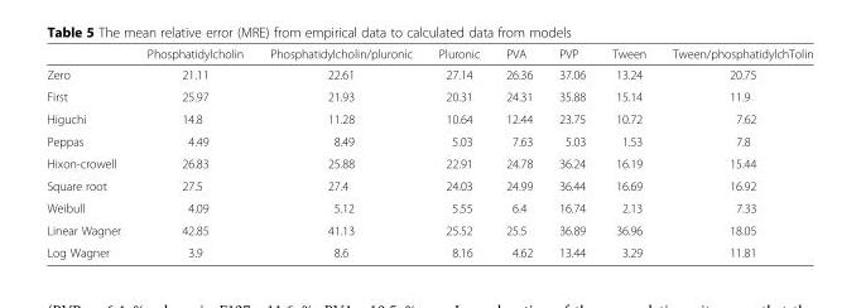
<table><thead><tr><td></td><td>Phosphatidylcholin</td><td>Phosphatidylcholin/pluronic</td><td>Pluronic</td><td>PVA</td><td>PVP</td><td>Tween</td><td>Tween/phosphatidylchTolin</td></tr></thead><tbody><tr><td>Zero</td><td>21.11</td><td>22.61</td><td>27.14</td><td>26.36</td><td>37.06</td><td>13.24</td><td>20.75</td></tr><tr><td>First</td><td>25.97</td><td>21.93</td><td>20.31</td><td>24.31</td><td>35.88</td><td>15.14</td><td>11.9</td></tr><tr><td>Higuchi</td><td>14.8</td><td>11.28</td><td>10.64</td><td>12.44</td><td>23.75</td><td>10.72</td><td>7.62</td></tr><tr><td>Peppas</td><td>4.49</td><td>8.49</td><td>5.03</td><td>7.63</td><td>5.03</td><td>1.53</td><td>7.8</td></tr><tr><td>Hixon-crowell</td><td>26.83</td><td>25.88</td><td>22.91</td><td>24.78</td><td>36.24</td><td>16.19</td><td>15.44</td></tr><tr><td>Square root</td><td>27.5</td><td>27.4</td><td>24.03</td><td>24.99</td><td>36.44</td><td>16.69</td><td>16.92</td></tr><tr><td>Weibull</td><td>4.09</td><td>5.12</td><td>5.55</td><td>6.4</td><td>16.74</td><td>2.13</td><td>7.33</td></tr><tr><td>Linear Wagner</td><td>42.85</td><td>41.13</td><td>25.52</td><td>25.5</td><td>36.89</td><td>36.96</td><td>18.05</td></tr><tr><td>Log Wagner</td><td>3.9</td><td>8.6</td><td>8.16</td><td>4.62</td><td>13.44</td><td>3.29</td><td>11.81</td></tr></tbody></table>